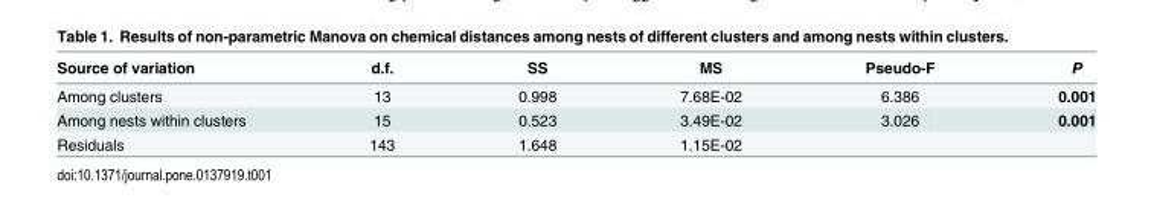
<table><thead><tr><td>Source of variation</td><td>d.f.</td><td>SS</td><td>MS</td><td>Pseudo-F</td><td>P</td></tr></thead><tbody><tr><td>Among clusters</td><td>13</td><td>0.998</td><td>7.68E-02</td><td>6.386</td><td>0.001</td></tr><tr><td>Among nests within clusters</td><td>15</td><td>0.523</td><td>3.49E-02</td><td>3.026</td><td>0.001</td></tr><tr><td>Residuals</td><td>143</td><td>1.648</td><td>1.15E-02</td><td></td><td></td></tr></tbody></table>